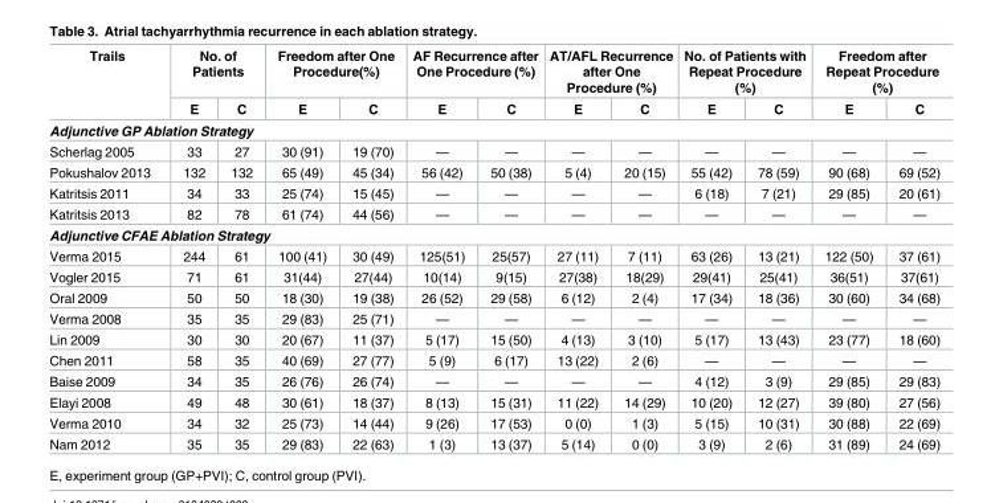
<table><thead><tr><td rowspan="2">Trails</td><td colspan="2">No. of Patients</td><td colspan="2">Freedom after One Procedure(%)</td><td colspan="2">AF Recurrence after One Procedure (%)</td><td colspan="2">AT/AFL Recurrence after One Procedure (%)</td><td colspan="2">No. of Patients with Repeat Procedure (%)</td><td colspan="2">Freedom after Repeat Procedure (%)</td></tr><tr><td>E</td><td>C</td><td>E</td><td>C</td><td>E</td><td>C</td><td>E</td><td>C</td><td>E</td><td>C</td><td>E</td><td>C</td></tr></thead><tbody><tr><td colspan="13">Adjunctive GP Ablation Strategy</td></tr><tr><td>Scherlag 2005</td><td>33</td><td>27</td><td>30 (91)</td><td>19 (70)</td><td>—</td><td>—</td><td>—</td><td>—</td><td>—</td><td>—</td><td>—</td><td>—</td></tr><tr><td>Pokushalov 2013</td><td>132</td><td>132</td><td>65 (49)</td><td>45 (34)</td><td>56 (42)</td><td>50 (38)</td><td>5 (4)</td><td>20 (15)</td><td>55 (42)</td><td>78 (59)</td><td>90 (68)</td><td>69 (52)</td></tr><tr><td>Katritsis 2011</td><td>34</td><td>33</td><td>25 (74)</td><td>15 (45)</td><td>—</td><td>—</td><td>—</td><td>—</td><td>6 (18)</td><td>7 (21)</td><td>29 (85)</td><td>20 (61)</td></tr><tr><td>Katritsis 2013</td><td>82</td><td>78</td><td>61 (74)</td><td>44 (56)</td><td>—</td><td>—</td><td>—</td><td>—</td><td>—</td><td>—</td><td>—</td><td>—</td></tr><tr><td colspan="13">Adjunctive CFAE Ablation Strategy</td></tr><tr><td>Verma 2015</td><td>244</td><td>61</td><td>100 (41)</td><td>30 (49)</td><td>125(51)</td><td>25(57)</td><td>27 (11)</td><td>7 (11)</td><td>63 (26)</td><td>13 (21)</td><td>122 (50)</td><td>37 (61)</td></tr><tr><td>Vogler 2015</td><td>71</td><td>61</td><td>31(44)</td><td>27(44)</td><td>10(14)</td><td>9(15)</td><td>27(38)</td><td>18(29)</td><td>29(41)</td><td>25(41)</td><td>36(51)</td><td>37(61)</td></tr><tr><td>Oral 2009</td><td>50</td><td>50</td><td>18 (30)</td><td>19 (38)</td><td>26 (52)</td><td>29 (58)</td><td>6 (12)</td><td>2 (4)</td><td>17 (34)</td><td>18 (36)</td><td>30 (60)</td><td>34 (68)</td></tr><tr><td>Verma 2008</td><td>35</td><td>35</td><td>29 (83)</td><td>25 (71)</td><td>—</td><td>—</td><td>—</td><td>—</td><td>—</td><td>—</td><td>—</td><td>—</td></tr><tr><td>Lin 2009</td><td>30</td><td>30</td><td>20 (67)</td><td>11 (37)</td><td>5 (17)</td><td>15 (50)</td><td>4 (13)</td><td>3 (10)</td><td>5 (17)</td><td>13 (43)</td><td>23 (77)</td><td>18 (60)</td></tr><tr><td>Chen 2011</td><td>58</td><td>35</td><td>40 (69)</td><td>27 (77)</td><td>5 (9)</td><td>6 (17)</td><td>13 (22)</td><td>2 (6)</td><td>—</td><td>—</td><td>—</td><td>—</td></tr><tr><td>Baise 2009</td><td>34</td><td>35</td><td>26 (76)</td><td>26 (74)</td><td>—</td><td>—</td><td>—</td><td>—</td><td>4 (12)</td><td>3 (9)</td><td>29 (85)</td><td>29 (83)</td></tr><tr><td>Elayi 2008</td><td>49</td><td>48</td><td>30 (61)</td><td>18 (37)</td><td>8 (13)</td><td>15 (31)</td><td>11 (22)</td><td>14 (29)</td><td>10 (20)</td><td>12 (27)</td><td>39 (80)</td><td>27 (56)</td></tr><tr><td>Verma 2010</td><td>34</td><td>32</td><td>25 (73)</td><td>14 (44)</td><td>9 (26)</td><td>17 (53)</td><td>0 (0)</td><td>1 (3)</td><td>5 (15)</td><td>10 (31)</td><td>30 (88)</td><td>22 (69)</td></tr><tr><td>Nam 2012</td><td>35</td><td>35</td><td>29 (83)</td><td>22 (63)</td><td>1 (3)</td><td>13 (37)</td><td>5 (14)</td><td>0 (0)</td><td>3 (9)</td><td>2 (6)</td><td>31 (89)</td><td>24 (69)</td></tr></tbody></table>